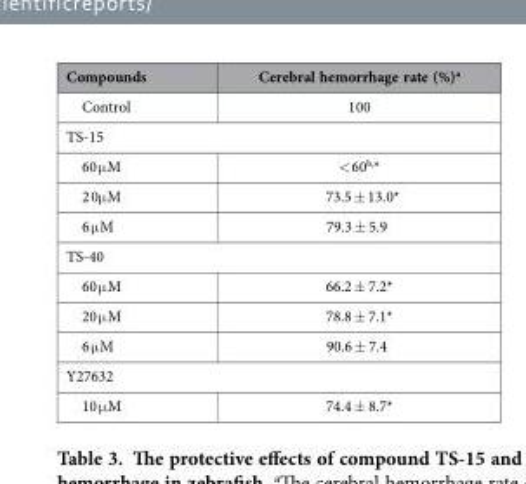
<table><thead><tr><td>Compounds</td><td>Cerebral hemorrhage rate (%)<sup>a</sup></td></tr></thead><tbody><tr><td>Control</td><td>100</td></tr><tr><td colspan="2">TS-15</td></tr><tr><td>60 μ M</td><td>&lt; 60<sup>b</sup>,*</td></tr><tr><td>2 0μ M</td><td>73.5 ± 13.0*</td></tr><tr><td>6 μ M</td><td>79.3 ± 5.9</td></tr><tr><td colspan="2">TS-40</td></tr><tr><td>60 μ M</td><td>66.2 ± 7.2*</td></tr><tr><td>20 μ M</td><td>78.8 ± 7.1*</td></tr><tr><td>6 μ M</td><td>90.6 ± 7.4</td></tr><tr><td colspan="2">Y27632</td></tr><tr><td>10 μ M</td><td>74.4 ± 8.7*</td></tr></tbody></table>